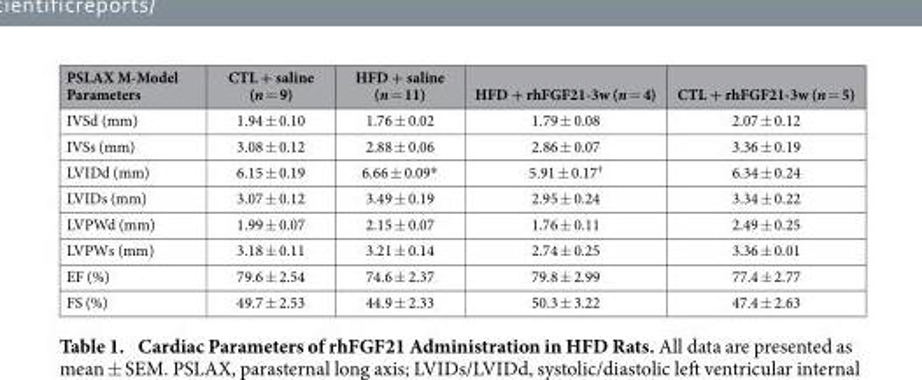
<table><thead><tr><td>PSLAX M-Model Parameters</td><td>CTL + saline (n = 9)</td><td>HFD + saline (n = 11)</td><td>HFD + rhFGF21-3w (n = 4)</td><td>CTL + rhFGF21-3w (n = 5)</td></tr></thead><tbody><tr><td>IVSd (mm)</td><td>1.94 ± 0.10</td><td>1.76 ± 0.02</td><td>1.79 ± 0.08</td><td>2.07 ± 0.12</td></tr><tr><td>IVSs (mm)</td><td>3.08 ± 0.12</td><td>2.88 ± 0.06</td><td>2.86 ± 0.07</td><td>3.36 ± 0.19</td></tr><tr><td>LVIDd (mm)</td><td>6.15 ± 0.19</td><td>6.66 ± 0.09*</td><td>5.91 ± 0.17<sup>†</sup></td><td>6.34 ± 0.24</td></tr><tr><td>LVIDs (mm)</td><td>3.07 ± 0.12</td><td>3.49 ± 0.19</td><td>2.95 ± 0.24</td><td>3.34 ± 0.22</td></tr><tr><td>LVPWd (mm)</td><td>1.99 ± 0.07</td><td>2.15 ± 0.07</td><td>1.76 ± 0.11</td><td>2.49 ± 0.25</td></tr><tr><td>LVPWs (mm)</td><td>3.18 ± 0.11</td><td>3.21 ± 0.14</td><td>2.74 ± 0.25</td><td>3.36 ± 0.01</td></tr><tr><td>EF (%)</td><td>79.6 ± 2.54</td><td>74.6 ± 2.37</td><td>79.8 ± 2.99</td><td>77.4 ± 2.77</td></tr><tr><td>FS (%)</td><td>49.7 ± 2.53</td><td>44.9 ± 2.33</td><td>50.3 ± 3.22</td><td>47.4 ± 2.63</td></tr></tbody></table>